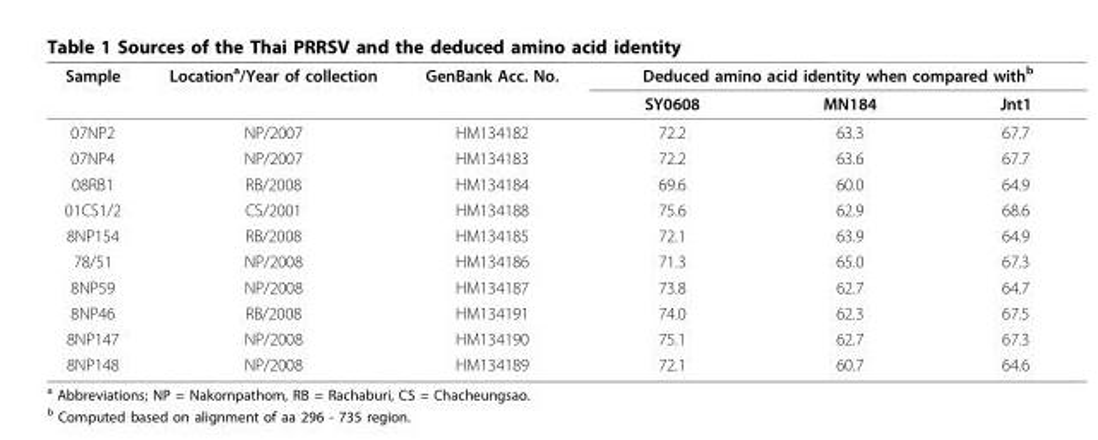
<table><thead><tr><td rowspan="2">Sample</td><td rowspan="2">Location<sup>a</sup>/Year of collection</td><td rowspan="2">GenBank Acc. No.</td><td colspan="3">Deduced amino acid identity when compared with<sup>b</sup></td></tr><tr><td>SY0608</td><td>MN184</td><td>Jnt1</td></tr></thead><tbody><tr><td>07NP2</td><td>NP/2007</td><td>HM134182</td><td>72.2</td><td>63.3</td><td>67.7</td></tr><tr><td>07NP4</td><td>NP/2007</td><td>HM134183</td><td>72.2</td><td>63.6</td><td>67.7</td></tr><tr><td>08RB1</td><td>RB/2008</td><td>HM134184</td><td>69.6</td><td>60.0</td><td>64.9</td></tr><tr><td>01CS1/2</td><td>CS/2001</td><td>HM134188</td><td>75.6</td><td>62.9</td><td>68.6</td></tr><tr><td>8NP154</td><td>RB/2008</td><td>HM134185</td><td>72.1</td><td>63.9</td><td>64.9</td></tr><tr><td>78/51</td><td>NP/2008</td><td>HM134186</td><td>71.3</td><td>65.0</td><td>67.3</td></tr><tr><td>8NP59</td><td>NP/2008</td><td>HM134187</td><td>73.8</td><td>62.7</td><td>64.7</td></tr><tr><td>8NP46</td><td>RB/2008</td><td>HM134191</td><td>74.0</td><td>62.3</td><td>67.5</td></tr><tr><td>8NP147</td><td>NP/2008</td><td>HM134190</td><td>75.1</td><td>62.7</td><td>67.3</td></tr><tr><td>8NP148</td><td>NP/2008</td><td>HM134189</td><td>72.1</td><td>60.7</td><td>64.6</td></tr></tbody></table>